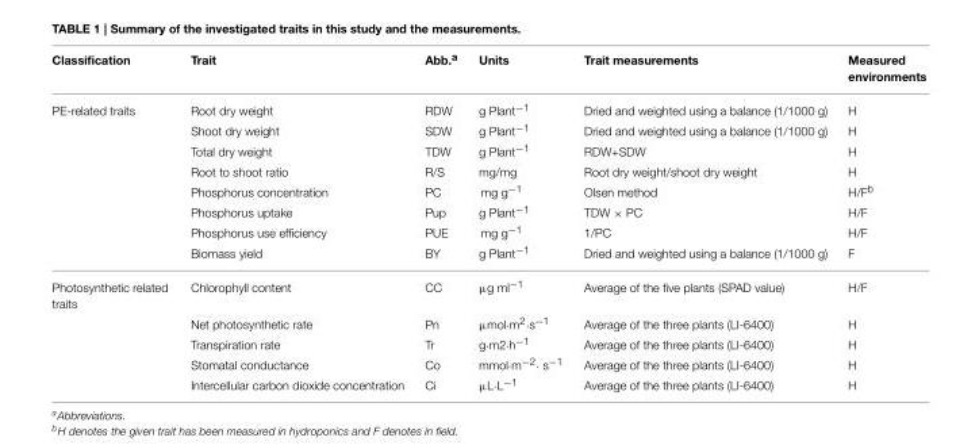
<table><thead><tr><td>Classification</td><td>Trait</td><td>Abb.<sup>a</sup></td><td>Units</td><td>Trait measurements</td><td>Measured environments</td></tr></thead><tbody><tr><td rowspan="8">PE-related traits</td><td>Root dry weight</td><td>RDW</td><td>g Plant<sup>−1</sup></td><td>Dried and weighted using a balance (1/1000 g)</td><td>H</td></tr><tr><td>Shoot dry weight</td><td>SDW</td><td>g Plant<sup>−1</sup></td><td>Dried and weighted using a balance (1/1000 g)</td><td>H</td></tr><tr><td>Total dry weight</td><td>TDW</td><td>g Plant<sup>−1</sup></td><td>RDW+SDW</td><td>H</td></tr><tr><td>Root to shoot ratio</td><td>R/S</td><td>mg/mg</td><td>Root dry weight/shoot dry weight</td><td>H</td></tr><tr><td>Phosphorus concentration</td><td>PC</td><td>mg g<sup>−1</sup></td><td>Olsen method</td><td>H/F<sup>b</sup></td></tr><tr><td>Phosphorus uptake</td><td>Pup</td><td>g Plant<sup>−1</sup></td><td>TDW × PC</td><td>H/F</td></tr><tr><td>Phosphorus use efficiency</td><td>PUE</td><td>mg g<sup>−1</sup></td><td>1/PC</td><td>H/F</td></tr><tr><td>Biomass yield</td><td>BY</td><td>g Plant<sup>−1</sup></td><td>Dried and weighted using a balance (1/1000 g)</td><td>F</td></tr><tr><td rowspan="5">Photosynthetic related traits</td><td>Chlorophyll content</td><td>CC</td><td>µg ml<sup>−1</sup></td><td>Average of the five plants (SPAD value)</td><td>H/F</td></tr><tr><td>Net photosynthetic rate</td><td>Pn</td><td>µmol·m<sup>2</sup>·s<sup>−1</sup></td><td>Average of the three plants (LI-6400)</td><td>H</td></tr><tr><td>Transpiration rate</td><td>Tr</td><td>g·m2·h<sup>−1</sup></td><td>Average of the three plants (LI-6400)</td><td>H</td></tr><tr><td>Stomatal conductance</td><td>Co</td><td>mmol·m<sup>−2</sup>· s<sup>−1</sup></td><td>Average of the three plants (LI-6400)</td><td>H</td></tr><tr><td>Intercellular carbon dioxide concentration</td><td>Ci</td><td>µL·L<sup>−1</sup></td><td>Average of the three plants (LI-6400)</td><td>H</td></tr></tbody></table>